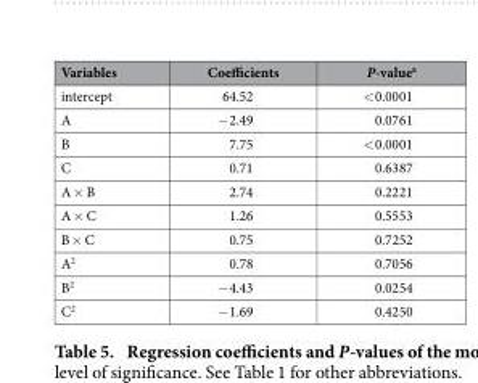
<table><thead><tr><td>Variables</td><td>Coefficients</td><td>P-value<sup>a</sup></td></tr></thead><tbody><tr><td>intercept</td><td>64.52</td><td>&lt; 0.0001</td></tr><tr><td>A</td><td>− 2.49</td><td>0.0761</td></tr><tr><td>B</td><td>7.75</td><td>&lt; 0.0001</td></tr><tr><td>C</td><td>0.71</td><td>0.6387</td></tr><tr><td>A × B</td><td>2.74</td><td>0.2221</td></tr><tr><td>A × C</td><td>1.26</td><td>0.5553</td></tr><tr><td>B × C</td><td>0.75</td><td>0.7252</td></tr><tr><td>A<sup>2</sup></td><td>0.78</td><td>0.7056</td></tr><tr><td>B<sup>2</sup></td><td>− 4.43</td><td>0.0254</td></tr><tr><td>C<sup>2</sup></td><td>− 1.69</td><td>0.4250</td></tr></tbody></table>